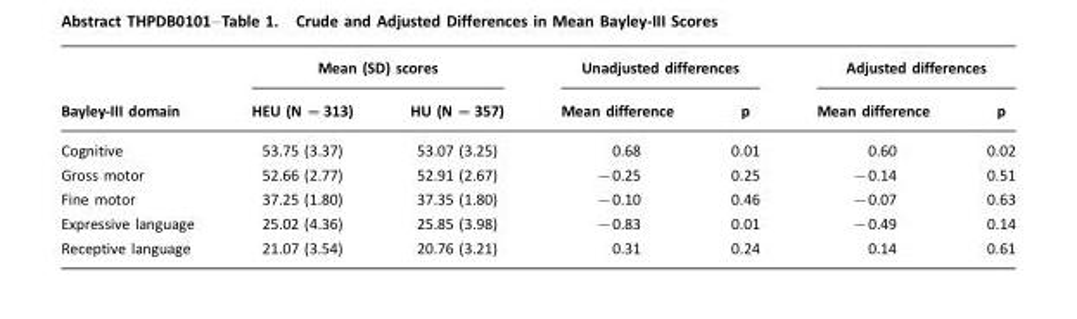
<table><thead><tr><td rowspan="2">Bayley-III domain</td><td colspan="2">Mean (SD) scores</td><td colspan="2">Unadjusted differences</td><td colspan="2">Adjusted differences</td></tr><tr><td>HEU (N =313)</td><td>HU (N =357)</td><td>Mean difference</td><td>p</td><td>Mean difference</td><td>p</td></tr></thead><tbody><tr><td>Cognitive</td><td>53.75 (3.37)</td><td>53.07 (3.25)</td><td>0.68</td><td>0.01</td><td>0.60</td><td>0.02</td></tr><tr><td>Gross motor</td><td>52.66 (2.77)</td><td>52.91 (2.67)</td><td>−0.25</td><td>0.25</td><td>−0.14</td><td>0.51</td></tr><tr><td>Fine motor</td><td>37.25 (1.80)</td><td>37.35 (1.80)</td><td>−0.10</td><td>0.46</td><td>−0.07</td><td>0.63</td></tr><tr><td>Expressive language</td><td>25.02 (4.36)</td><td>25.85 (3.98)</td><td>−0.83</td><td>0.01</td><td>−0.49</td><td>0.14</td></tr><tr><td>Receptive language</td><td>21.07 (3.54)</td><td>20.76 (3.21)</td><td>0.31</td><td>0.24</td><td>0.14</td><td>0.61</td></tr></tbody></table>